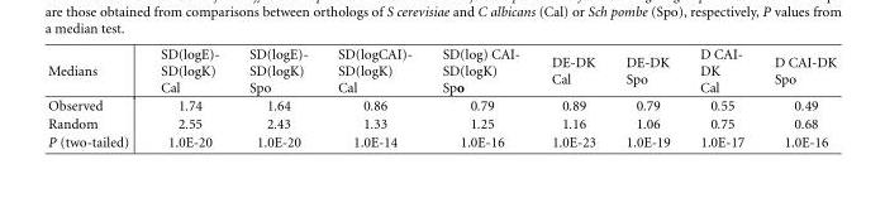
<table><tbody><tr><td>Medians</td><td>SD(logE)- SD(logK) Cal</td><td>SD(logE)- SD(logK) Spo</td><td>SD(logCAI)- SD(logK) Cal</td><td>SD(log) CAI- SD(logK) Spo</td><td>DE-DK Cal</td><td>DE-DK Spo</td><td>D CAI- DK Cal</td><td>D CAI-DK Spo</td></tr><tr><td>Observed</td><td>1.74</td><td>1.64</td><td>0.86</td><td>0.79</td><td>0.89</td><td>0.79</td><td>0.55</td><td>0.49</td></tr><tr><td>Random</td><td>2.55</td><td>2.43</td><td>1.33</td><td>1.25</td><td>1.16</td><td>1.06</td><td>0.75</td><td>0.68</td></tr><tr><td>P (two-tailed)</td><td>1.0E-20</td><td>1.0E-20</td><td>1.0E-14</td><td>1.0E-16</td><td>1.0E-23</td><td>1.0E-19</td><td>1.0E-17</td><td>1.0E-16</td></tr></tbody></table>